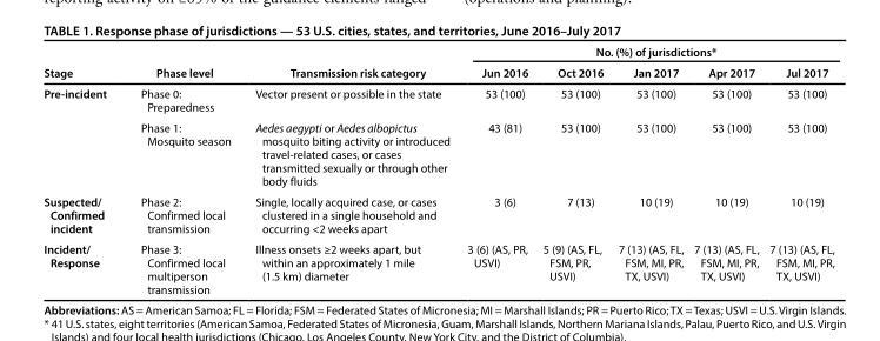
<table><thead><tr><td rowspan="2">Stage</td><td rowspan="2">Phase level</td><td rowspan="2">Transmission risk category</td><td colspan="5">No. (%) of jurisdictions*</td></tr><tr><td>Jun 2016</td><td>Oct 2016</td><td>Jan 2017</td><td>Apr 2017</td><td>Jul 2017</td></tr></thead><tbody><tr><td rowspan="2">Pre-incident</td><td>Phase 0: Preparedness</td><td>Vector present or possible in the state</td><td>53 (100)</td><td>53 (100)</td><td>53 (100)</td><td>53 (100)</td><td>53 (100)</td></tr><tr><td>Phase 1: Mosquito season</td><td>Aedes aegypti or Aedes albopictus mosquito biting activity or introduced travel-related cases, or cases transmitted sexually or through other body fluids</td><td>43 (81)</td><td>53 (100)</td><td>53 (100)</td><td>53 (100)</td><td>53 (100)</td></tr><tr><td>Suspected/ Confirmed incident</td><td>Phase 2: Confirmed local transmission</td><td>Single, locally acquired case, or cases clustered in a single household and occurring &lt;2 weeks apart</td><td>3 (6)</td><td>7 (13)</td><td>10 (19)</td><td>10 (19)</td><td>10 (19)</td></tr><tr><td>Incident/ Response</td><td>Phase 3: Confirmed local multiperson transmission</td><td>Illness onsets ≥2 weeks apart, but within an approximately 1 mile (1.5 km) diameter</td><td>3 (6) (AS, PR, USVI)</td><td>5 (9) (AS, FL, FSM, PR, USVI)</td><td>7 (13) (AS, FL, FSM, MI, PR, TX, USVI)</td><td>7 (13) (AS, FL, FSM, MI, PR, TX, USVI)</td><td>7 (13) (AS, FL, FSM, MI, PR, TX, USVI)</td></tr></tbody></table>